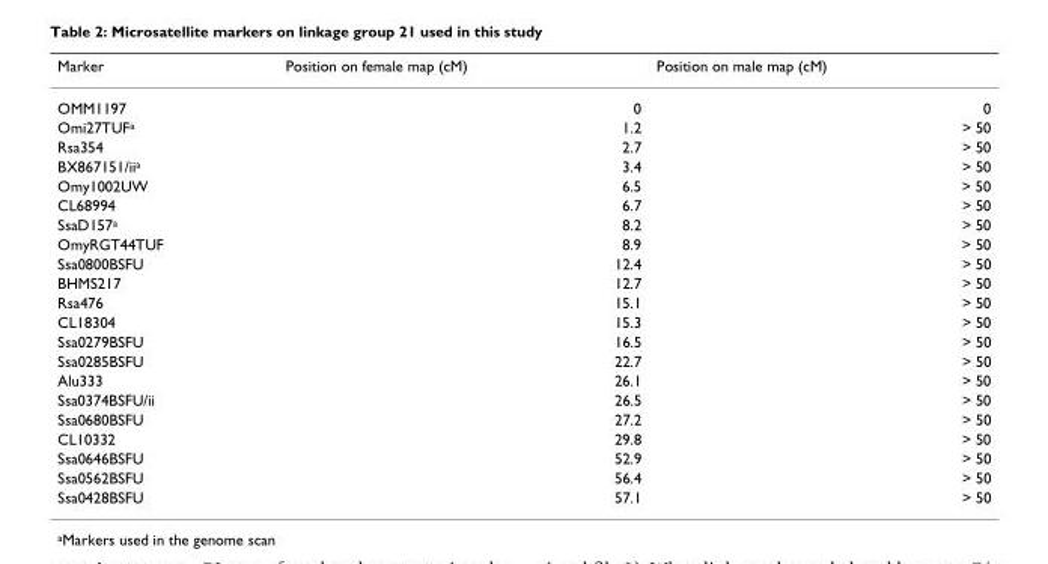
<table><thead><tr><td>Marker</td><td>Position on female map (cM)</td><td>Position on male map (cM)</td></tr></thead><tbody><tr><td>OMM1197</td><td>0</td><td>0</td></tr><tr><td>Omi27TUF<sup>a</sup></td><td>1.2</td><td>&gt; 50</td></tr><tr><td>Rsa354</td><td>2.7</td><td>&gt; 50</td></tr><tr><td>BX867151/ii<sup>a</sup></td><td>3.4</td><td>&gt; 50</td></tr><tr><td>Omy1002UW</td><td>6.5</td><td>&gt; 50</td></tr><tr><td>CL68994</td><td>6.7</td><td>&gt; 50</td></tr><tr><td>SsaD157<sup>a</sup></td><td>8.2</td><td>&gt; 50</td></tr><tr><td>OmyRGT44TUF</td><td>8.9</td><td>&gt; 50</td></tr><tr><td>Ssa0800BSFU</td><td>12.4</td><td>&gt; 50</td></tr><tr><td>BHMS217</td><td>12.7</td><td>&gt; 50</td></tr><tr><td>Rsa476</td><td>15.1</td><td>&gt; 50</td></tr><tr><td>CL18304</td><td>15.3</td><td>&gt; 50</td></tr><tr><td>Ssa0279BSFU</td><td>16.5</td><td>&gt; 50</td></tr><tr><td>Ssa0285BSFU</td><td>22.7</td><td>&gt; 50</td></tr><tr><td>Alu333</td><td>26.1</td><td>&gt; 50</td></tr><tr><td>Ssa0374BSFU/ii</td><td>26.5</td><td>&gt; 50</td></tr><tr><td>Ssa0680BSFU</td><td>27.2</td><td>&gt; 50</td></tr><tr><td>CL10332</td><td>29.8</td><td>&gt; 50</td></tr><tr><td>Ssa0646BSFU</td><td>52.9</td><td>&gt; 50</td></tr><tr><td>Ssa0562BSFU</td><td>56.4</td><td>&gt; 50</td></tr><tr><td>Ssa0428BSFU</td><td>57.1</td><td>&gt; 50</td></tr></tbody></table>